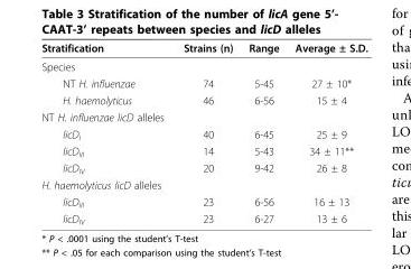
<table><thead><tr><td>Stratification</td><td>Strains (n)</td><td>Range</td><td>Average ± S.D.</td></tr></thead><tbody><tr><td colspan="4">Species</td></tr><tr><td>NT H. influenzae</td><td>74</td><td>5-45</td><td>27 ± 10*</td></tr><tr><td>H. haemolyticus</td><td>46</td><td>6-56</td><td>15 ± 4</td></tr><tr><td colspan="4">NT H. influenzae licD alleles</td></tr><tr><td>licD<sub>I</sub></td><td>40</td><td>6-45</td><td>25 ± 9</td></tr><tr><td>licD<sub>III</sub></td><td>14</td><td>5-43</td><td>34 ± 11**</td></tr><tr><td>licD<sub>IV</sub></td><td>20</td><td>9-42</td><td>26 ± 8</td></tr><tr><td colspan="4">H. haemolyticus licD alleles</td></tr><tr><td>licD<sub>III</sub></td><td>23</td><td>6-56</td><td>16 ± 13</td></tr><tr><td>licD<sub>IV</sub></td><td>23</td><td>6-27</td><td>13 ± 6</td></tr></tbody></table>